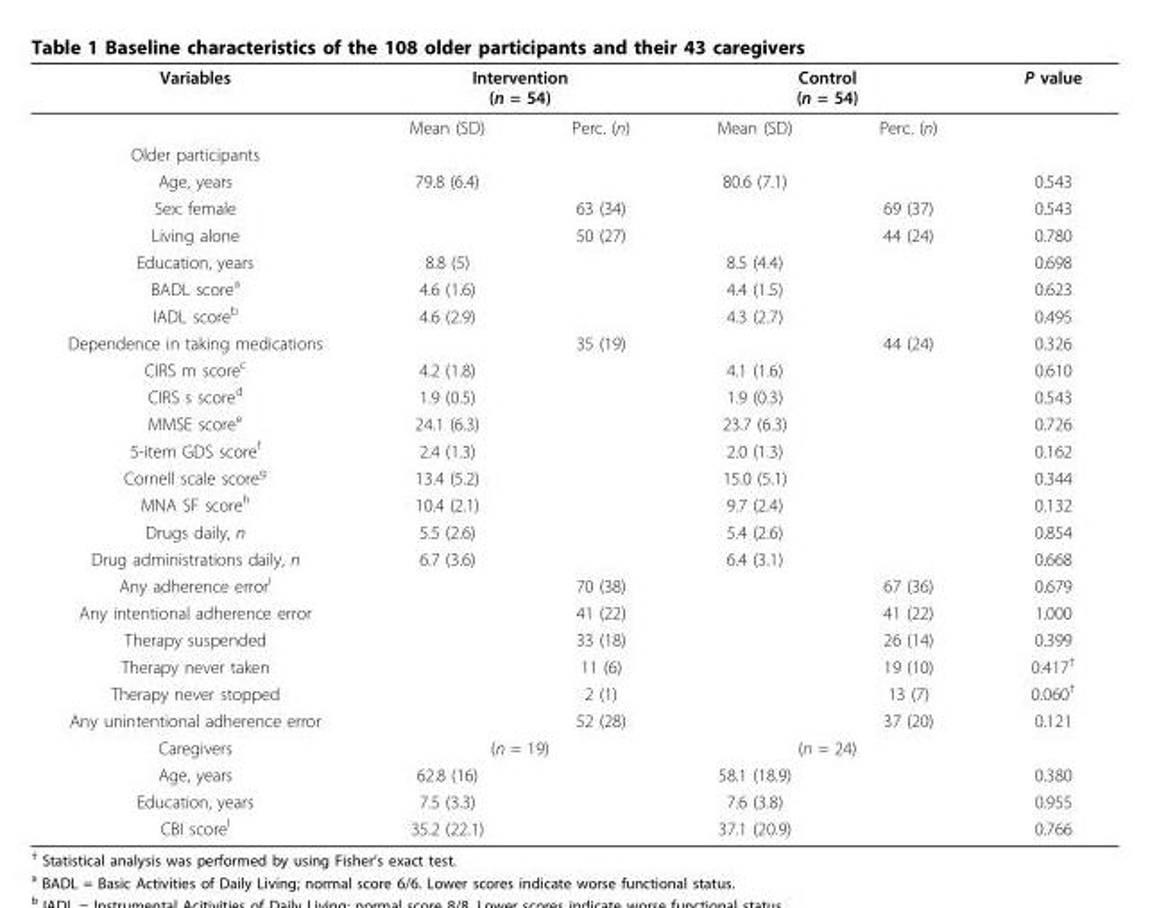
<table><thead><tr><td rowspan="2">Variables</td><td colspan="2">Intervention (n = 54)</td><td colspan="2">Control (n = 54)</td><td rowspan="2">P value</td></tr><tr><td>Mean (SD)</td><td>Perc. (n)</td><td>Mean (SD)</td><td>Perc. (n)</td></tr></thead><tbody><tr><td colspan="6">Older participants</td></tr><tr><td>Age, years</td><td>79.8 (6.4)</td><td></td><td>80.6 (7.1)</td><td></td><td>0.543</td></tr><tr><td>Sex: female</td><td></td><td>63 (34)</td><td></td><td>69 (37)</td><td>0.543</td></tr><tr><td>Living alone</td><td></td><td>50 (27)</td><td></td><td>44 (24)</td><td>0.780</td></tr><tr><td>Education, years</td><td>8.8 (5)</td><td></td><td>8.5 (4.4)</td><td></td><td>0.698</td></tr><tr><td>BADL score<sup>a</sup></td><td>4.6 (1.6)</td><td></td><td>4.4 (1.5)</td><td></td><td>0.623</td></tr><tr><td>IADL score<sup>b</sup></td><td>4.6 (2.9)</td><td></td><td>4.3 (2.7)</td><td></td><td>0.495</td></tr><tr><td>Dependence in taking medications</td><td></td><td>35 (19)</td><td></td><td>44 (24)</td><td>0.326</td></tr><tr><td>CIRS m score<sup>c</sup></td><td>4.2 (1.8)</td><td></td><td>4.1 (1.6)</td><td></td><td>0.610</td></tr><tr><td>CIRS s score<sup>d</sup></td><td>1.9 (0.5)</td><td></td><td>1.9 (0.3)</td><td></td><td>0.543</td></tr><tr><td>MMSE score<sup>e</sup></td><td>24.1 (6.3)</td><td></td><td>23.7 (6.3)</td><td></td><td>0.726</td></tr><tr><td>5-item GDS score<sup>f</sup></td><td>2.4 (1.3)</td><td></td><td>2.0 (1.3)</td><td></td><td>0.162</td></tr><tr><td>Cornell scale score<sup>g</sup></td><td>13.4 (5.2)</td><td></td><td>15.0 (5.1)</td><td></td><td>0.344</td></tr><tr><td>MNA SF score<sup>h</sup></td><td>10.4 (2.1)</td><td></td><td>9.7 (2.4)</td><td></td><td>0.132</td></tr><tr><td>Drugs daily, n</td><td>5.5 (2.6)</td><td></td><td>5.4 (2.6)</td><td></td><td>0.854</td></tr><tr><td>Drug administrations daily, n</td><td>6.7 (3.6)</td><td></td><td>6.4 (3.1)</td><td></td><td>0.668</td></tr><tr><td>Any adherence error<sup>i</sup></td><td></td><td>70 (38)</td><td></td><td>67 (36)</td><td>0.679</td></tr><tr><td>Any intentional adherence error</td><td></td><td>41 (22)</td><td></td><td>41 (22)</td><td>1.000</td></tr><tr><td>Therapy suspended</td><td></td><td>33 (18)</td><td></td><td>26 (14)</td><td>0.399</td></tr><tr><td>Therapy never taken</td><td></td><td>11 (6)</td><td></td><td>19 (10)</td><td>0.417<sup>†</sup></td></tr><tr><td>Therapy never stopped</td><td></td><td>2 (1)</td><td></td><td>13 (7)</td><td>0.060<sup>†</sup></td></tr><tr><td>Any unintentional adherence error</td><td></td><td>52 (28)</td><td></td><td>37 (20)</td><td>0.121</td></tr><tr><td>Caregivers</td><td colspan="2">(n = 19)</td><td colspan="2">(n = 24)</td><td></td></tr><tr><td>Age, years</td><td>62.8 (16)</td><td></td><td>58.1 (18.9)</td><td></td><td>0.380</td></tr><tr><td>Education, years</td><td>7.5 (3.3)</td><td></td><td>7.6 (3.8)</td><td></td><td>0.955</td></tr><tr><td>CBI score<sup>l</sup></td><td>35.2 (22.1)</td><td></td><td>37.1 (20.9)</td><td></td><td>0.766</td></tr></tbody></table>